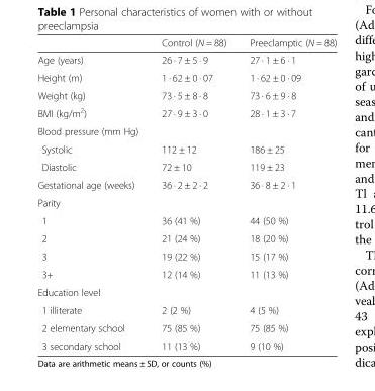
<table><thead><tr><td></td><td>Control (N = 88)</td><td>Preeclamptic (N = 88)</td></tr></thead><tbody><tr><td>Age (years)</td><td>26 · 7 ± 5 · 9</td><td>27 · 1 ± 6 · 1</td></tr><tr><td>Height (m)</td><td>1 · 62 ± 0 · 07</td><td>1 · 62 ± 0 · 09</td></tr><tr><td>Weight (kg)</td><td>73 · 5 ± 8 · 8</td><td>73 · 6 ± 9 · 8</td></tr><tr><td>BMI (kg/m<sup>2</sup>)</td><td>27 · 9 ± 3 · 0</td><td>28 · 1 ± 3 · 7</td></tr><tr><td colspan="3">Blood pressure (mm Hg)</td></tr><tr><td>Systolic</td><td>112 ± 12</td><td>186 ± 25</td></tr><tr><td>Diastolic</td><td>72 ± 10</td><td>119 ± 23</td></tr><tr><td>Gestational age (weeks)</td><td>36 · 2 ± 2 · 2</td><td>36 · 8 ± 2 · 1</td></tr><tr><td colspan="3">Parity</td></tr><tr><td>1</td><td>36 (41 %)</td><td>44 (50 %)</td></tr><tr><td>2</td><td>21 (24 %)</td><td>18 (20 %)</td></tr><tr><td>3</td><td>19 (22 %)</td><td>15 (17 %)</td></tr><tr><td>3+</td><td>12 (14 %)</td><td>11 (13 %)</td></tr><tr><td colspan="3">Education level</td></tr><tr><td>1 illiterate</td><td>2 (2 %)</td><td>4 (5 %)</td></tr><tr><td>2 elementary school</td><td>75 (85 %)</td><td>75 (85 %)</td></tr><tr><td>3 secondary school</td><td>11 (13 %)</td><td>9 (10 %)</td></tr></tbody></table>